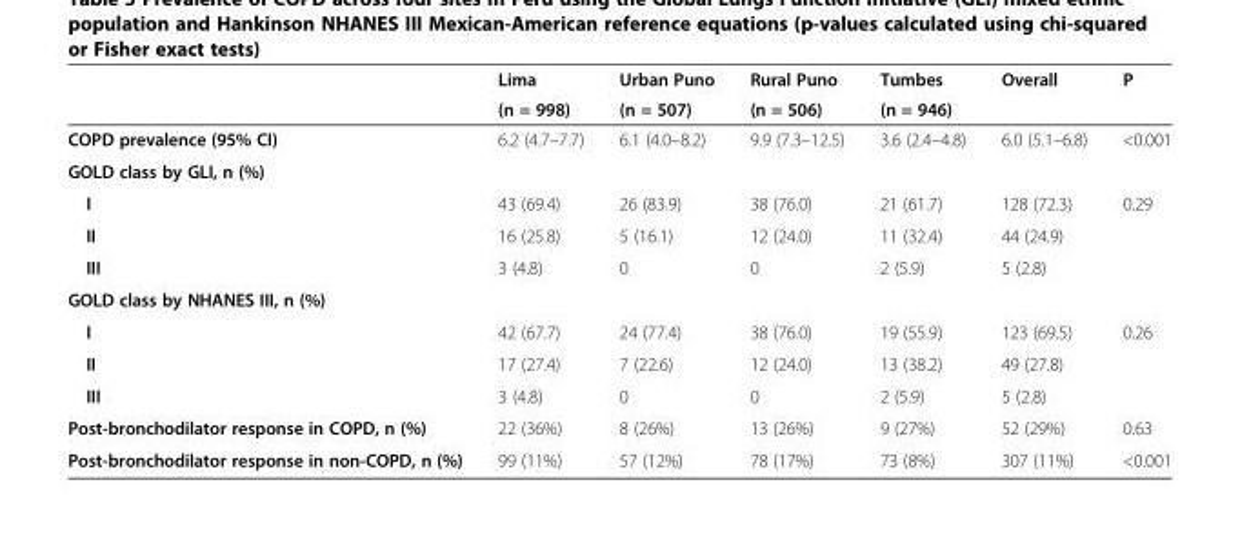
<table><thead><tr><td rowspan="2"></td><td rowspan="2">Lima (n = 998)</td><td rowspan="2">Urban Puno (n = 507)</td><td rowspan="2">Rural Puno (n = 506)</td><td rowspan="2">Tumbes (n = 946)</td><td rowspan="2">Overall</td><td rowspan="2">P</td></tr><tr></tr></thead><tbody><tr><td>COPD prevalence (95% CI)</td><td>6.2 (4.7–7.7)</td><td>6.1 (4.0–8.2)</td><td>9.9 (7.3–12.5)</td><td>3.6 (2.4–4.8)</td><td>6.0 (5.1–6.8)</td><td>&lt;0.001</td></tr><tr><td colspan="7">GOLD class by GLI, n (%)</td></tr><tr><td>I</td><td>43 (69.4)</td><td>26 (83.9)</td><td>38 (76.0)</td><td>21 (61.7)</td><td>128 (72.3)</td><td>0.29</td></tr><tr><td>II</td><td>16 (25.8)</td><td>5 (16.1)</td><td>12 (24.0)</td><td>11 (32.4)</td><td>44 (24.9)</td><td></td></tr><tr><td>III</td><td>3 (4.8)</td><td>0</td><td>0</td><td>2 (5.9)</td><td>5 (2.8)</td><td></td></tr><tr><td colspan="7">GOLD class by NHANES III, n (%)</td></tr><tr><td>I</td><td>42 (67.7)</td><td>24 (77.4)</td><td>38 (76.0)</td><td>19 (55.9)</td><td>123 (69.5)</td><td>0.26</td></tr><tr><td>II</td><td>17 (27.4)</td><td>7 (22.6)</td><td>12 (24.0)</td><td>13 (38.2)</td><td>49 (27.8)</td><td></td></tr><tr><td>III</td><td>3 (4.8)</td><td>0</td><td>0</td><td>2 (5.9)</td><td>5 (2.8)</td><td></td></tr><tr><td>Post-bronchodilator response in COPD, n (%)</td><td>22 (36%)</td><td>8 (26%)</td><td>13 (26%)</td><td>9 (27%)</td><td>52 (29%)</td><td>0.63</td></tr><tr><td>Post-bronchodilator response in non-COPD, n (%)</td><td>99 (11%)</td><td>57 (12%)</td><td>78 (17%)</td><td>73 (8%)</td><td>307 (11%)</td><td>&lt;0.001</td></tr></tbody></table>